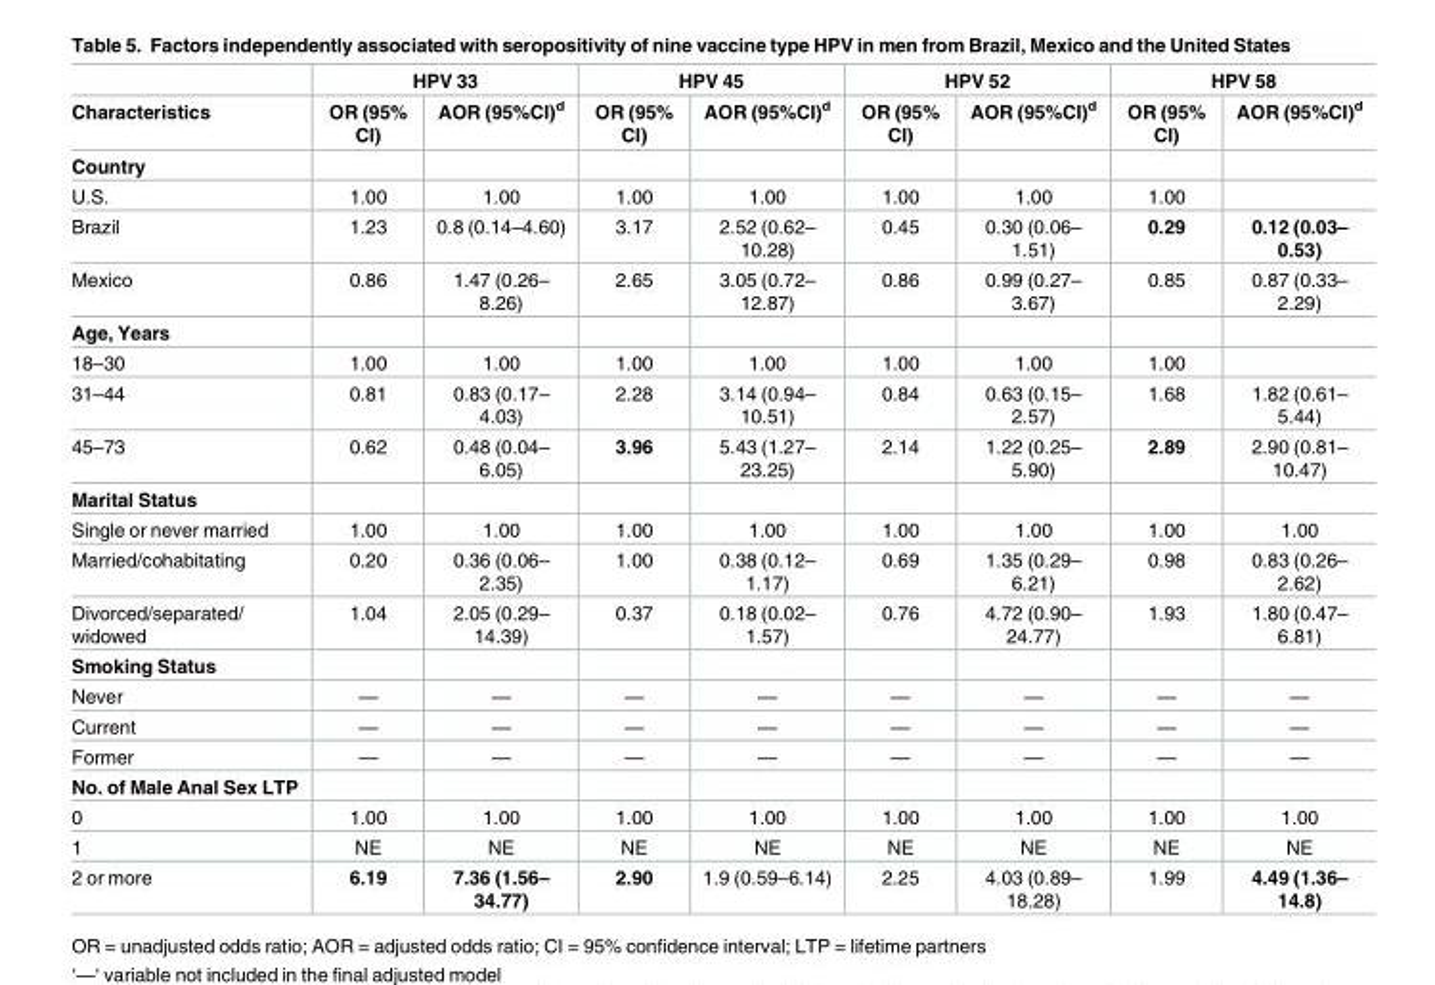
<table><thead><tr><td rowspan="2">Characteristics</td><td colspan="2">HPV 33</td><td colspan="2">HPV 45</td><td colspan="2">HPV 52</td><td colspan="2">HPV 58</td></tr><tr><td>OR (95% CI)</td><td>AOR (95%CI)<sup>d</sup></td><td>OR (95% CI)</td><td>AOR (95%CI)<sup>d</sup></td><td>OR (95% CI)</td><td>AOR (95%CI)<sup>d</sup></td><td>OR (95% CI)</td><td>AOR (95%CI)<sup>d</sup></td></tr></thead><tbody><tr><td colspan="9">Country</td></tr><tr><td>U.S.</td><td>1.00</td><td>1.00</td><td>1.00</td><td>1.00</td><td>1.00</td><td>1.00</td><td>1.00</td><td></td></tr><tr><td>Brazil</td><td>1.23</td><td>0.8 (0.14–4.60)</td><td>3.17</td><td>2.52 (0.62– 10.28)</td><td>0.45</td><td>0.30 (0.06– 1.51)</td><td>0.29</td><td>0.12 (0.03– 0.53)</td></tr><tr><td>Mexico</td><td>0.86</td><td>1.47 (0.26– 8.26)</td><td>2.65</td><td>3.05 (0.72– 12.87)</td><td>0.86</td><td>0.99 (0.27– 3.67)</td><td>0.85</td><td>0.87 (0.33– 2.29)</td></tr><tr><td colspan="9">Age, Years</td></tr><tr><td>18–30</td><td>1.00</td><td>1.00</td><td>1.00</td><td>1.00</td><td>1.00</td><td>1.00</td><td>1.00</td><td></td></tr><tr><td>31–44</td><td>0.81</td><td>0.83 (0.17– 4.03)</td><td>2.28</td><td>3.14 (0.94– 10.51)</td><td>0.84</td><td>0.63 (0.15– 2.57)</td><td>1.68</td><td>1.82 (0.61– 5.44)</td></tr><tr><td>45–73</td><td>0.62</td><td>0.48 (0.04– 6.05)</td><td>3.96</td><td>5.43 (1.27– 23.25)</td><td>2.14</td><td>1.22 (0.25– 5.90)</td><td>2.89</td><td>2.90 (0.81– 10.47)</td></tr><tr><td colspan="9">Marital Status</td></tr><tr><td>Single or never married</td><td>1.00</td><td>1.00</td><td>1.00</td><td>1.00</td><td>1.00</td><td>1.00</td><td>1.00</td><td>1.00</td></tr><tr><td>Married/cohabitating</td><td>0.20</td><td>0.36 (0.06– 2.35)</td><td>1.00</td><td>0.38 (0.12– 1.17)</td><td>0.69</td><td>1.35 (0.29– 6.21)</td><td>0.98</td><td>0.83 (0.26– 2.62)</td></tr><tr><td>Divorced/separated/ widowed</td><td>1.04</td><td>2.05 (0.29– 14.39)</td><td>0.37</td><td>0.18 (0.02– 1.57)</td><td>0.76</td><td>4.72 (0.90– 24.77)</td><td>1.93</td><td>1.80 (0.47– 6.81)</td></tr><tr><td colspan="9">Smoking Status</td></tr><tr><td>Never</td><td>—</td><td>—</td><td>—</td><td>—</td><td>—</td><td>—</td><td>—</td><td>—</td></tr><tr><td>Current</td><td>—</td><td>—</td><td>—</td><td>—</td><td>—</td><td>—</td><td>—</td><td>—</td></tr><tr><td>Former</td><td>—</td><td>—</td><td>—</td><td>—</td><td>—</td><td>—</td><td>—</td><td>—</td></tr><tr><td colspan="9">No. of Male Anal Sex LTP</td></tr><tr><td>0</td><td>1.00</td><td>1.00</td><td>1.00</td><td>1.00</td><td>1.00</td><td>1.00</td><td>1.00</td><td>1.00</td></tr><tr><td>1</td><td>NE</td><td>NE</td><td>NE</td><td>NE</td><td>NE</td><td>NE</td><td>NE</td><td>NE</td></tr><tr><td>2 or more</td><td>6.19</td><td>7.36 (1.56– 34.77)</td><td>2.90</td><td>1.9 (0.59–6.14)</td><td>2.25</td><td>4.03 (0.89– 18.28)</td><td>1.99</td><td>4.49 (1.36– 14.8)</td></tr></tbody></table>